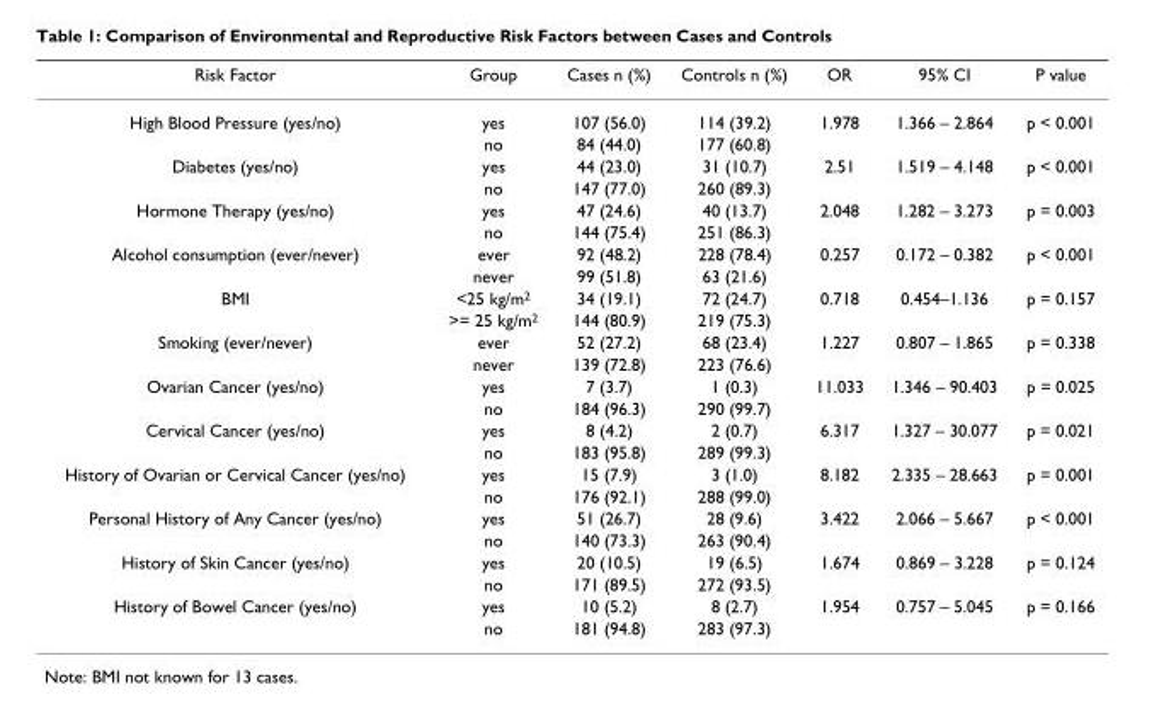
<table><thead><tr><td>Risk Factor</td><td>Group</td><td>Cases n (%)</td><td>Controls n (%)</td><td>OR</td><td>95% CI</td><td>P value</td></tr></thead><tbody><tr><td rowspan="2">High Blood Pressure (yes/no)</td><td>yes</td><td>107 (56.0)</td><td>114 (39.2)</td><td>1.978</td><td>1.366 – 2.864</td><td>p &lt; 0.001</td></tr><tr><td>no</td><td>84 (44.0)</td><td>177 (60.8)</td><td></td><td></td><td></td></tr><tr><td rowspan="2">Diabetes (yes/no)</td><td>yes</td><td>44 (23.0)</td><td>31 (10.7)</td><td>2.51</td><td>1.519 – 4.148</td><td>p &lt; 0.001</td></tr><tr><td>no</td><td>147 (77.0)</td><td>260 (89.3)</td><td></td><td></td><td></td></tr><tr><td rowspan="2">Hormone Therapy (yes/no)</td><td>yes</td><td>47 (24.6)</td><td>40 (13.7)</td><td>2.048</td><td>1.282 – 3.273</td><td>p = 0.003</td></tr><tr><td>no</td><td>144 (75.4)</td><td>251 (86.3)</td><td></td><td></td><td></td></tr><tr><td rowspan="2">Alcohol consumption (ever/never)</td><td>ever</td><td>92 (48.2)</td><td>228 (78.4)</td><td>0.257</td><td>0.172 – 0.382</td><td>p &lt; 0.001</td></tr><tr><td>never</td><td>99 (51.8)</td><td>63 (21.6)</td><td></td><td></td><td></td></tr><tr><td rowspan="2">BMI</td><td>&lt;25 kg/m<sup>2</sup></td><td>34 (19.1)</td><td>72 (24.7)</td><td>0.718</td><td>0.454–1.136</td><td>p = 0.157</td></tr><tr><td>&gt;= 25 kg/m<sup>2</sup></td><td>144 (80.9)</td><td>219 (75.3)</td><td></td><td></td><td></td></tr><tr><td rowspan="2">Smoking (ever/never)</td><td>ever</td><td>52 (27.2)</td><td>68 (23.4)</td><td>1.227</td><td>0.807 – 1.865</td><td>p = 0.338</td></tr><tr><td>never</td><td>139 (72.8)</td><td>223 (76.6)</td><td></td><td></td><td></td></tr><tr><td rowspan="2">Ovarian Cancer (yes/no)</td><td>yes</td><td>7 (3.7)</td><td>1 (0.3)</td><td>11.033</td><td>1.346 – 90.403</td><td>p = 0.025</td></tr><tr><td>no</td><td>184 (96.3)</td><td>290 (99.7)</td><td></td><td></td><td></td></tr><tr><td rowspan="2">Cervical Cancer (yes/no)</td><td>yes</td><td>8 (4.2)</td><td>2 (0.7)</td><td>6.317</td><td>1.327 – 30.077</td><td>p = 0.021</td></tr><tr><td>no</td><td>183 (95.8)</td><td>289 (99.3)</td><td></td><td></td><td></td></tr><tr><td rowspan="2">History of Ovarian or Cervical Cancer (yes/no)</td><td>yes</td><td>15 (7.9)</td><td>3 (1.0)</td><td>8.182</td><td>2.335 – 28.663</td><td>p = 0.001</td></tr><tr><td>no</td><td>176 (92.1)</td><td>288 (99.0)</td><td></td><td></td><td></td></tr><tr><td rowspan="2">Personal History of Any Cancer (yes/no)</td><td>yes</td><td>51 (26.7)</td><td>28 (9.6)</td><td>3.422</td><td>2.066 – 5.667</td><td>p &lt; 0.001</td></tr><tr><td>no</td><td>140 (73.3)</td><td>263 (90.4)</td><td></td><td></td><td></td></tr><tr><td rowspan="2">History of Skin Cancer (yes/no)</td><td>yes</td><td>20 (10.5)</td><td>19 (6.5)</td><td>1.674</td><td>0.869 – 3.228</td><td>p = 0.124</td></tr><tr><td>no</td><td>171 (89.5)</td><td>272 (93.5)</td><td></td><td></td><td></td></tr><tr><td rowspan="2">History of Bowel Cancer (yes/no)</td><td>yes</td><td>10 (5.2)</td><td>8 (2.7)</td><td>1.954</td><td>0.757 – 5.045</td><td>p = 0.166</td></tr><tr><td>no</td><td>181 (94.8)</td><td>283 (97.3)</td><td></td><td></td><td></td></tr></tbody></table>